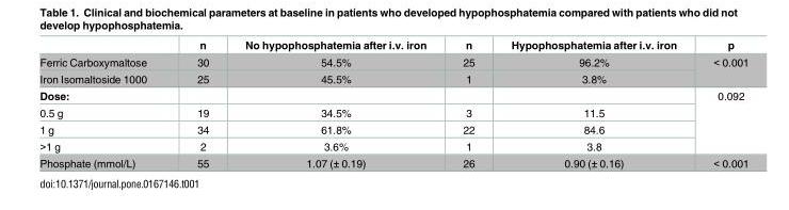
<table><thead><tr><td></td><td>n</td><td>No hypophosphatemia after i.v. iron</td><td>n</td><td>Hypophosphatemia after i.v. iron</td><td>p</td></tr></thead><tbody><tr><td>Ferric Carboxymaltose</td><td>30</td><td>54.5%</td><td>25</td><td>96.2%</td><td rowspan="2">&lt; 0.001</td></tr><tr><td>Iron Isomaltoside 1000</td><td>25</td><td>45.5%</td><td>1</td><td>3.8%</td></tr><tr><td colspan="5">Dose:</td><td rowspan="4">0.092</td></tr><tr><td>0.5 g</td><td>19</td><td>34.5%</td><td>3</td><td>11.5</td></tr><tr><td>1 g</td><td>34</td><td>61.8%</td><td>22</td><td>84.6</td></tr><tr><td>&gt;1 g</td><td>2</td><td>3.6%</td><td>1</td><td>3.8</td></tr><tr><td>Phosphate (mmol/L)</td><td>55</td><td>1.07 (± 0.19)</td><td>26</td><td>0.90 (± 0.16)</td><td>&lt; 0.001</td></tr></tbody></table>